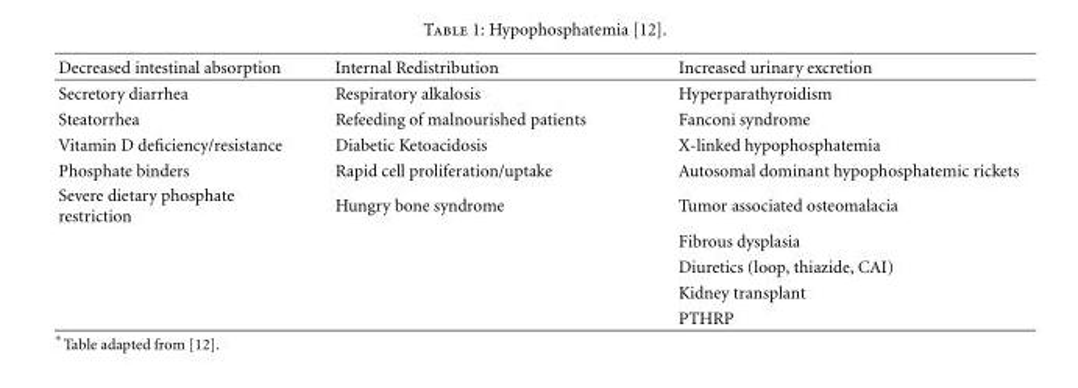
<table><thead><tr><td>Decreased intestinal absorption</td><td>Internal Redistribution</td><td>Increased urinary excretion</td></tr></thead><tbody><tr><td>Secretory diarrhea</td><td>Respiratory alkalosis</td><td>Hyperparathyroidism</td></tr><tr><td>Steatorrhea</td><td>Refeeding of malnourished patients</td><td>Fanconi syndrome</td></tr><tr><td>Vitamin D deficiency/resistance</td><td>Diabetic Ketoacidosis</td><td>X-linked hypophosphatemia</td></tr><tr><td>Phosphate binders</td><td>Rapid cell proliferation/uptake</td><td>Autosomal dominant hypophosphatemic rickets</td></tr><tr><td rowspan="5">Severe dietary phosphate restriction</td><td>Hungry bone syndrome</td><td>Tumor associated osteomalacia</td></tr><tr><td></td><td>Fibrous dysplasia</td></tr><tr><td></td><td>Diuretics (loop, thiazide, CAI)</td></tr><tr><td></td><td>Kidney transplant</td></tr><tr><td></td><td>PTHRP</td></tr></tbody></table>